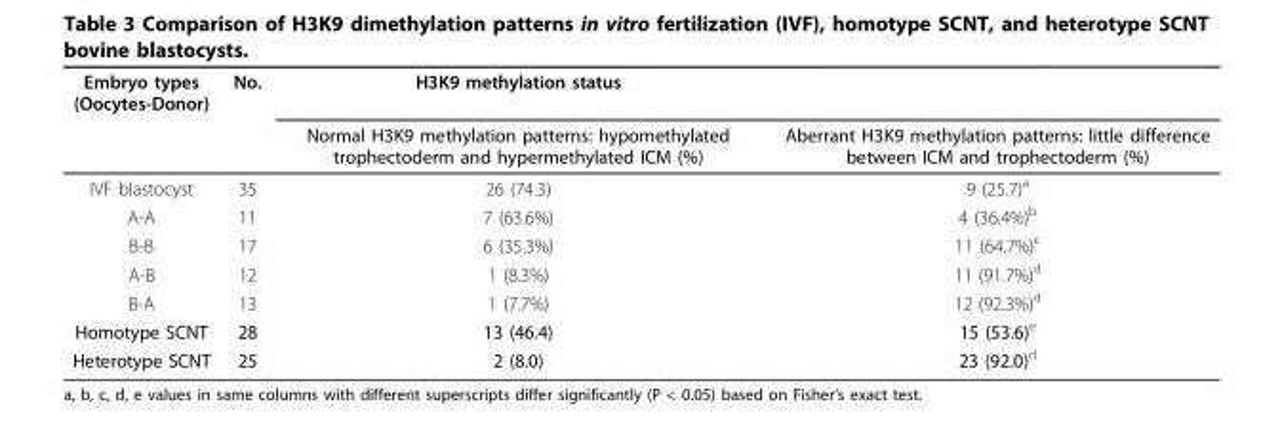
<table><thead><tr><td rowspan="2">Embryo types (Oocytes-Donor)</td><td rowspan="2">No.</td><td rowspan="2">H3K9 methylation status Normal H3K9 methylation patterns: hypomethylated trophectoderm and hypermethylated ICM (%)</td><td rowspan="2">Aberrant H3K9 methylation patterns: little difference between ICM and trophectoderm (%)</td></tr><tr></tr></thead><tbody><tr><td>IVF blastocyst</td><td>35</td><td>26 (74.3)</td><td>9 (25.7)<sup>a</sup></td></tr><tr><td>A-A</td><td>11</td><td>7 (63.6%)</td><td>4 (36.4%)<sup>b</sup></td></tr><tr><td>B-B</td><td>17</td><td>6 (35.3%)</td><td>11 (64.7%)<sup>c</sup></td></tr><tr><td>A-B</td><td>12</td><td>1 (8.3%)</td><td>11 (91.7%)<sup>d</sup></td></tr><tr><td>B-A</td><td>13</td><td>1 (7.7%)</td><td>12 (92.3%)<sup>d</sup></td></tr><tr><td>Homotype SCNT</td><td>28</td><td>13 (46.4)</td><td>15 (53.6)<sup>e</sup></td></tr><tr><td>Heterotype SCNT</td><td>25</td><td>2 (8.0)</td><td>23 (92.0)<sup>d</sup></td></tr></tbody></table>